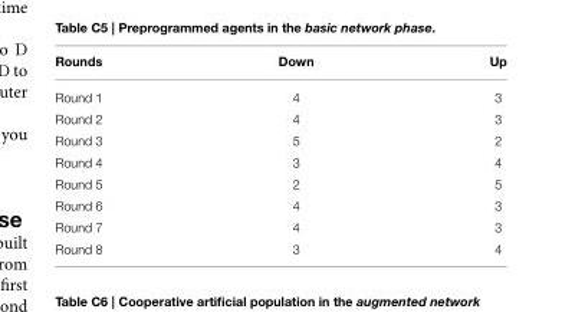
<table><thead><tr><td>Rounds</td><td>Down</td><td>Up</td></tr></thead><tbody><tr><td>Round 1</td><td>4</td><td>3</td></tr><tr><td>Round 2</td><td>4</td><td>3</td></tr><tr><td>Round 3</td><td>5</td><td>2</td></tr><tr><td>Round 4</td><td>3</td><td>4</td></tr><tr><td>Round 5</td><td>2</td><td>5</td></tr><tr><td>Round 6</td><td>4</td><td>3</td></tr><tr><td>Round 7</td><td>4</td><td>3</td></tr><tr><td>Round 8</td><td>3</td><td>4</td></tr></tbody></table>